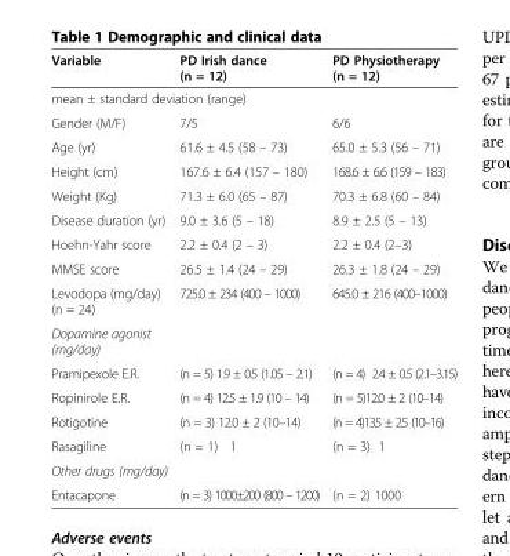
<table><thead><tr><td>Variable</td><td>PD Irish dance (n = 12)</td><td>PD Physiotherapy (n = 12)</td></tr></thead><tbody><tr><td colspan="3">mean ± standard deviation (range)</td></tr><tr><td>Gender (M/F)</td><td>7/5</td><td>6/6</td></tr><tr><td>Age (yr)</td><td>61.6 ± 4.5 (58 – 73)</td><td>65.0 ± 5.3 (56 – 71)</td></tr><tr><td>Height (cm)</td><td>167.6 ± 6.4 (157 – 180)</td><td>168.6 ± 6.6 (159 – 183)</td></tr><tr><td>Weight (Kg)</td><td>71.3 ± 6.0 (65 – 87)</td><td>70.3 ± 6.8 (60 – 84)</td></tr><tr><td>Disease duration (yr)</td><td>9.0 ± 3.6 (5 – 18)</td><td>8.9 ± 2.5 (5 – 13)</td></tr><tr><td>Hoehn-Yahr score</td><td>2.2 ± 0.4 (2 – 3)</td><td>2.2 ± 0.4 (2–3)</td></tr><tr><td>MMSE score</td><td>26.5 ± 1.4 (24 – 29)</td><td>26.3 ± 1.8 (24 – 29)</td></tr><tr><td>Levodopa (mg/day) (n = 24)</td><td>725.0 ± 234 (400 – 1000)</td><td>645.0 ± 216 (400–1000)</td></tr><tr><td colspan="3">Dopamine agonist (mg/day)</td></tr><tr><td>Pramipexole E.R.</td><td>(n = 5) 1.9 ± 0.5 (1.05 – 2.1)</td><td>(n = 4) 2.4 ± 0.5 (2.1–3.15)</td></tr><tr><td>Ropinirole E.R.</td><td>(n = 4) 12.5 ± 1.9 (10 – 14)</td><td>(n = 5)12.0 ± 2 (10–14)</td></tr><tr><td>Rotigotine</td><td>(n = 3) 12.0 ± 2 (10–14)</td><td>(n = 4)13.5 ± 2.5 (10–16)</td></tr><tr><td>Rasagiline</td><td>(n = 1) 1</td><td>(n = 3) 1</td></tr><tr><td colspan="3">Other drugs (mg/day)</td></tr><tr><td>Entacapone</td><td>(n = 3) 1000±200 (800 – 1200)</td><td>(n = 2) 1000</td></tr></tbody></table>